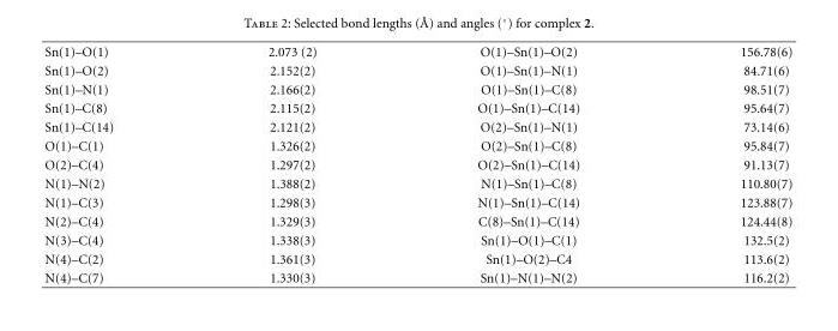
<table><tbody><tr><td>Sn(1)–O(1)</td><td>2.073 (2)</td><td>O(1)–Sn(1)–O(2)</td><td>156.78(6)</td></tr><tr><td>Sn(1)–O(2)</td><td>2.152(2)</td><td>O(1)–Sn(1)–N(1)</td><td>84.71(6)</td></tr><tr><td>Sn(1)–N(1)</td><td>2.166(2)</td><td>O(1)–Sn(1)–C(8)</td><td>98.51(7)</td></tr><tr><td>Sn(1)–C(8)</td><td>2.115(2)</td><td>O(1)–Sn(1)–C(14)</td><td>95.64(7)</td></tr><tr><td>Sn(1)–C(14)</td><td>2.121(2)</td><td>O(2)–Sn(1)–N(1)</td><td>73.14(6)</td></tr><tr><td>O(1)–C(1)</td><td>1.326(2)</td><td>O(2)–Sn(1)–C(8)</td><td>95.84(7)</td></tr><tr><td>O(2)–C(4)</td><td>1.297(2)</td><td>O(2)–Sn(1)–C(14)</td><td>91.13(7)</td></tr><tr><td>N(1)–N(2)</td><td>1.388(2)</td><td>N(1)–Sn(1)–C(8)</td><td>110.80(7)</td></tr><tr><td>N(1)–C(3)</td><td>1.298(3)</td><td>N(1)–Sn(1)–C(14)</td><td>123.88(7)</td></tr><tr><td>N(2)–C(4)</td><td>1.329(3)</td><td>C(8)–Sn(1)–C(14)</td><td>124.44(8)</td></tr><tr><td>N(3)–C(4)</td><td>1.338(3)</td><td>Sn(1)–O(1)–C(1)</td><td>132.5(2)</td></tr><tr><td>N(4)–C(2)</td><td>1.361(3)</td><td>Sn(1)–O(2)–C4</td><td>113.6(2)</td></tr><tr><td>N(4)–C(7)</td><td>1.330(3)</td><td>Sn(1)–N(1)–N(2)</td><td>116.2(2)</td></tr></tbody></table>